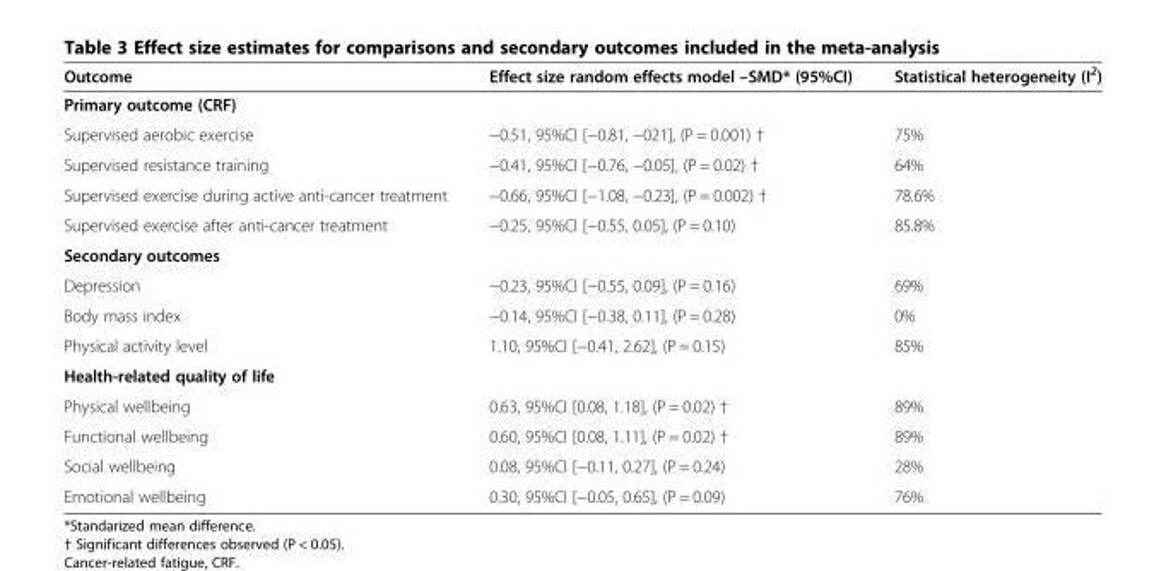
<table><thead><tr><td>Outcome</td><td>Effect size random effects model –SMD* (95%CI)</td><td>Statistical heterogeneity (I<sup>2</sup>)</td></tr></thead><tbody><tr><td colspan="3">Primary outcome (CRF)</td></tr><tr><td>Supervised aerobic exercise</td><td>−0.51, 95%CI [−0.81, −021], (P = 0.001) †</td><td>75%</td></tr><tr><td>Supervised resistance training</td><td>−0.41, 95%CI [−0.76, −0.05], (P = 0.02) †</td><td>64%</td></tr><tr><td>Supervised exercise during active anti-cancer treatment</td><td>−0.66, 95%CI [−1.08, −0.23], (P = 0.002) †</td><td>78.6%</td></tr><tr><td>Supervised exercise after anti-cancer treatment</td><td>−0.25, 95%CI [−0.55, 0.05], (P = 0.10)</td><td>85.8%</td></tr><tr><td colspan="3">Secondary outcomes</td></tr><tr><td>Depression</td><td>−0.23, 95%CI [−0.55, 0.09], (P = 0.16)</td><td>69%</td></tr><tr><td>Body mass index</td><td>−0.14, 95%CI [−0.38, 0.11], (P = 0.28)</td><td>0%</td></tr><tr><td>Physical activity level</td><td>1.10, 95%CI [−0.41, 2.62], (P = 0.15)</td><td>85%</td></tr><tr><td colspan="3">Health-related quality of life</td></tr><tr><td>Physical wellbeing</td><td>0.63, 95%CI [0.08, 1.18], (P = 0.02) †</td><td>89%</td></tr><tr><td>Functional wellbeing</td><td>0.60, 95%CI [0.08, 1.11], (P = 0.02) †</td><td>89%</td></tr><tr><td>Social wellbeing</td><td>0.08, 95%CI [−0.11, 0.27], (P = 0.24)</td><td>28%</td></tr><tr><td>Emotional wellbeing</td><td>0.30, 95%CI [−0.05, 0.65], (P = 0.09)</td><td>76%</td></tr></tbody></table>